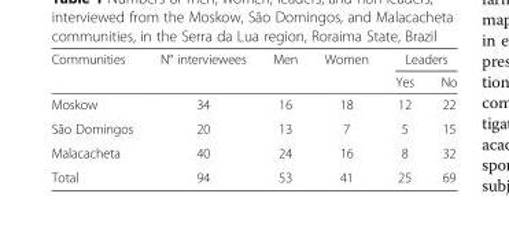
<table><thead><tr><td rowspan="2">Communities</td><td rowspan="2">N° interviewees</td><td rowspan="2">Men</td><td rowspan="2">Women</td><td colspan="2">Leaders</td></tr><tr><td>Yes</td><td>No</td></tr></thead><tbody><tr><td>Moskow</td><td>34</td><td>16</td><td>18</td><td>12</td><td>22</td></tr><tr><td>São Domingos</td><td>20</td><td>13</td><td>7</td><td>5</td><td>15</td></tr><tr><td>Malacacheta</td><td>40</td><td>24</td><td>16</td><td>8</td><td>32</td></tr><tr><td>Total</td><td>94</td><td>53</td><td>41</td><td>25</td><td>69</td></tr></tbody></table>